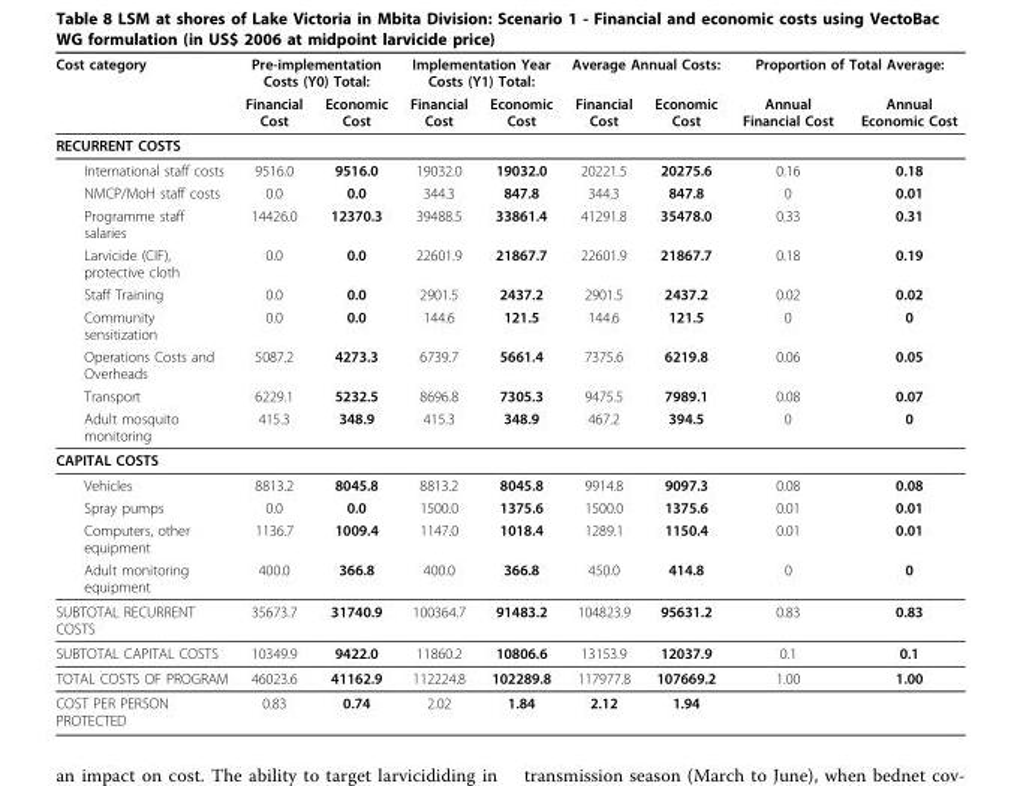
<table><thead><tr><td rowspan="2">Cost category</td><td colspan="2">Pre-implementation Costs (Y0) Total:</td><td colspan="2">Implementation Year Costs (Y1) Total:</td><td colspan="2">Average Annual Costs:</td><td colspan="2">Proportion of Total Average:</td></tr><tr><td>Financial Cost</td><td>Economic Cost</td><td>Financial Cost</td><td>Economic Cost</td><td>Financial Cost</td><td>Economic Cost</td><td>Annual Financial Cost</td><td>Annual Economic Cost</td></tr></thead><tbody><tr><td colspan="9">RECURRENT COSTS</td></tr><tr><td>International staff costs</td><td>9516.0</td><td>9516.0</td><td>19032.0</td><td>19032.0</td><td>20221.5</td><td>20275.6</td><td>0.16</td><td>0.18</td></tr><tr><td>NMCP/MoH staff costs</td><td>0.0</td><td>0.0</td><td>344.3</td><td>847.8</td><td>344.3</td><td>847.8</td><td>0</td><td>0.01</td></tr><tr><td>Programme staff salaries</td><td>14426.0</td><td>12370.3</td><td>39488.5</td><td>33861.4</td><td>41291.8</td><td>35478.0</td><td>0.33</td><td>0.31</td></tr><tr><td>Larvicide (CIF), protective cloth</td><td>0.0</td><td>0.0</td><td>22601.9</td><td>21867.7</td><td>22601.9</td><td>21867.7</td><td>0.18</td><td>0.19</td></tr><tr><td>Staff Training</td><td>0.0</td><td>0.0</td><td>2901.5</td><td>2437.2</td><td>2901.5</td><td>2437.2</td><td>0.02</td><td>0.02</td></tr><tr><td>Community sensitization</td><td>0.0</td><td>0.0</td><td>144.6</td><td>121.5</td><td>144.6</td><td>121.5</td><td>0</td><td>0</td></tr><tr><td>Operations Costs and Overheads</td><td>5087.2</td><td>4273.3</td><td>6739.7</td><td>5661.4</td><td>7375.6</td><td>6219.8</td><td>0.06</td><td>0.05</td></tr><tr><td>Transport</td><td>6229.1</td><td>5232.5</td><td>8696.8</td><td>7305.3</td><td>9475.5</td><td>7989.1</td><td>0.08</td><td>0.07</td></tr><tr><td>Adult mosquito monitoring</td><td>415.3</td><td>348.9</td><td>415.3</td><td>348.9</td><td>467.2</td><td>394.5</td><td>0</td><td>0</td></tr><tr><td colspan="9">CAPITAL COSTS</td></tr><tr><td>Vehicles</td><td>8813.2</td><td>8045.8</td><td>8813.2</td><td>8045.8</td><td>9914.8</td><td>9097.3</td><td>0.08</td><td>0.08</td></tr><tr><td>Spray pumps</td><td>0.0</td><td>0.0</td><td>1500.0</td><td>1375.6</td><td>1500.0</td><td>1375.6</td><td>0.01</td><td>0.01</td></tr><tr><td>Computers, other equipment</td><td>1136.7</td><td>1009.4</td><td>1147.0</td><td>1018.4</td><td>1289.1</td><td>1150.4</td><td>0.01</td><td>0.01</td></tr><tr><td>Adult monitoring equipment</td><td>400.0</td><td>366.8</td><td>400.0</td><td>366.8</td><td>450.0</td><td>414.8</td><td>0</td><td>0</td></tr><tr><td>SUBTOTAL RECURRENT COSTS</td><td>35673.7</td><td>31740.9</td><td>100364.7</td><td>91483.2</td><td>104823.9</td><td>95631.2</td><td>0.83</td><td>0.83</td></tr><tr><td>SUBTOTAL CAPITAL COSTS</td><td>10349.9</td><td>9422.0</td><td>11860.2</td><td>10806.6</td><td>13153.9</td><td>12037.9</td><td>0.1</td><td>0.1</td></tr><tr><td>TOTAL COSTS OF PROGRAM</td><td>46023.6</td><td>41162.9</td><td>112224.8</td><td>102289.8</td><td>117977.8</td><td>107669.2</td><td>1.00</td><td>1.00</td></tr><tr><td>COST PER PERSON PROTECTED</td><td>0.83</td><td>0.74</td><td>2.02</td><td>1.84</td><td>2.12</td><td>1.94</td><td></td><td></td></tr></tbody></table>